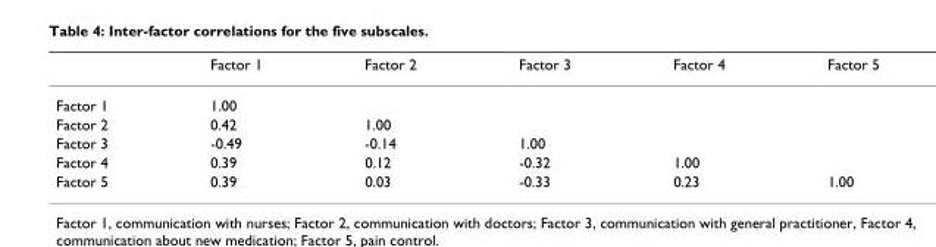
<table><thead><tr><td></td><td>Factor 1</td><td>Factor 2</td><td>Factor 3</td><td>Factor 4</td><td>Factor 5</td></tr></thead><tbody><tr><td>Factor 1</td><td>1.00</td><td></td><td></td><td></td><td></td></tr><tr><td>Factor 2</td><td>0.42</td><td>1.00</td><td></td><td></td><td></td></tr><tr><td>Factor 3</td><td>-0.49</td><td>-0.14</td><td>1.00</td><td></td><td></td></tr><tr><td>Factor 4</td><td>0.39</td><td>0.12</td><td>-0.32</td><td>1.00</td><td></td></tr><tr><td>Factor 5</td><td>0.39</td><td>0.03</td><td>-0.33</td><td>0.23</td><td>1.00</td></tr></tbody></table>